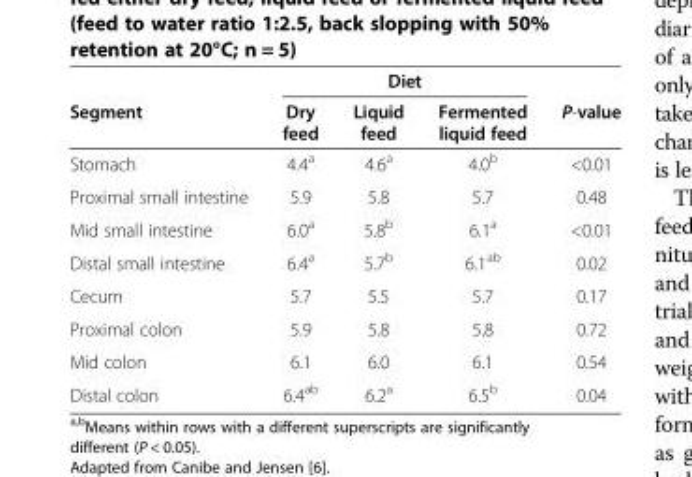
<table><thead><tr><td rowspan="2">Segment</td><td colspan="3">Diet</td><td rowspan="2">P-value</td></tr><tr><td>Dry feed</td><td>Liquid feed</td><td>Fermented liquid feed</td></tr></thead><tbody><tr><td>Stomach</td><td>4.4<sup>a</sup></td><td>4.6<sup>a</sup></td><td>4.0<sup>b</sup></td><td>&lt;0.01</td></tr><tr><td>Proximal small intestine</td><td>5.9</td><td>5.8</td><td>5.7</td><td>0.48</td></tr><tr><td>Mid small intestine</td><td>6.0<sup>a</sup></td><td>5.8<sup>b</sup></td><td>6.1<sup>a</sup></td><td>&lt;0.01</td></tr><tr><td>Distal small intestine</td><td>6.4<sup>a</sup></td><td>5.7<sup>b</sup></td><td>6.1<sup>ab</sup></td><td>0.02</td></tr><tr><td>Cecum</td><td>5.7</td><td>5.5</td><td>5.7</td><td>0.17</td></tr><tr><td>Proximal colon</td><td>5.9</td><td>5.8</td><td>5.8</td><td>0.72</td></tr><tr><td>Mid colon</td><td>6.1</td><td>6.0</td><td>6.1</td><td>0.54</td></tr><tr><td>Distal colon</td><td>6.4<sup>ab</sup></td><td>6.2<sup>a</sup></td><td>6.5<sup>b</sup></td><td>0.04</td></tr></tbody></table>